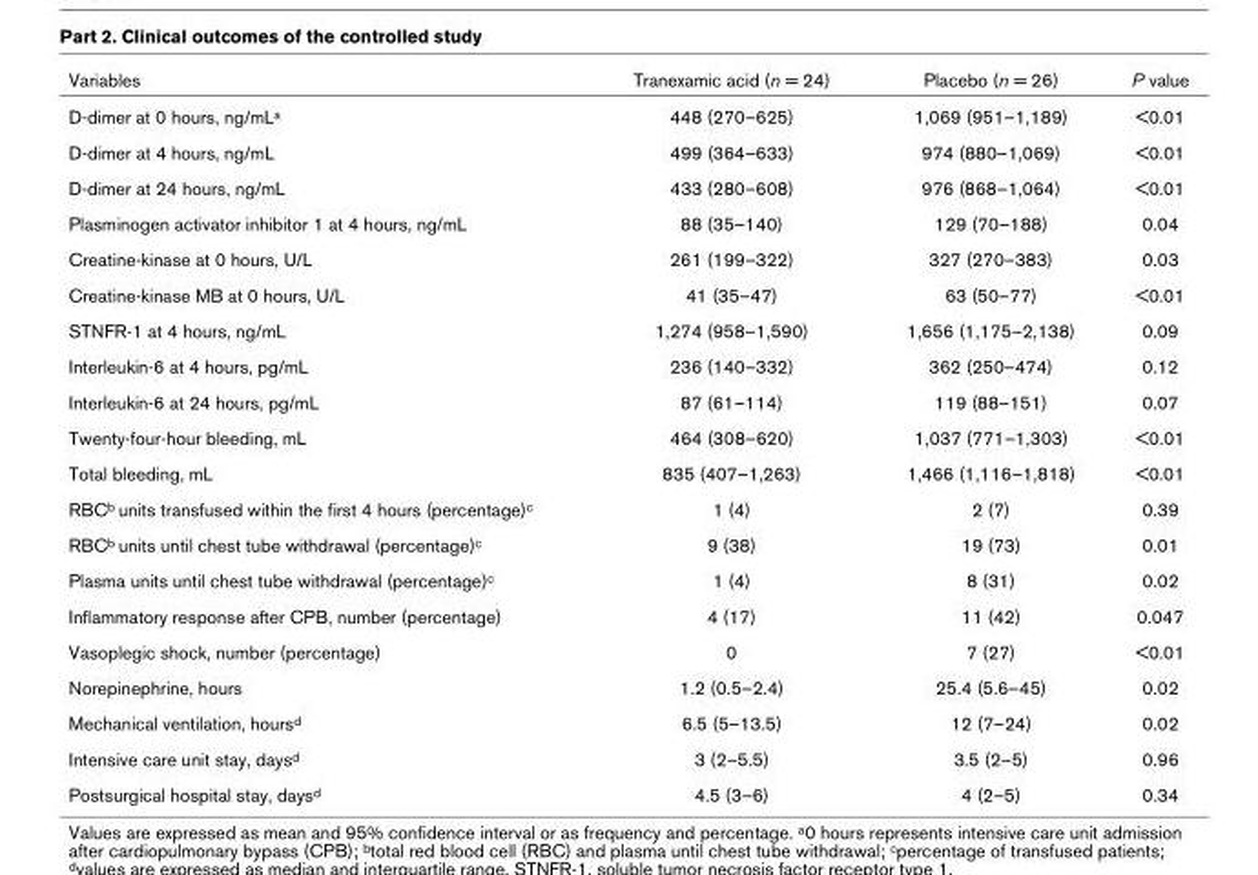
<table><thead><tr><td>Variables</td><td>Tranexamic acid (n = 24)</td><td>Placebo (n = 26)</td><td>P value</td></tr></thead><tbody><tr><td>D-dimer at 0 hours, ng/mL<sup>a</sup></td><td>448 (270–625)</td><td>1,069 (951–1,189)</td><td>&lt;0.01</td></tr><tr><td>D-dimer at 4 hours, ng/mL</td><td>499 (364–633)</td><td>974 (880–1,069)</td><td>&lt;0.01</td></tr><tr><td>D-dimer at 24 hours, ng/mL</td><td>433 (280–608)</td><td>976 (868–1,064)</td><td>&lt;0.01</td></tr><tr><td>Plasminogen activator inhibitor 1 at 4 hours, ng/mL</td><td>88 (35–140)</td><td>129 (70–188)</td><td>0.04</td></tr><tr><td>Creatine-kinase at 0 hours, U/L</td><td>261 (199–322)</td><td>327 (270–383)</td><td>0.03</td></tr><tr><td>Creatine-kinase MB at 0 hours, U/L</td><td>41 (35–47)</td><td>63 (50–77)</td><td>&lt;0.01</td></tr><tr><td>STNFR-1 at 4 hours, ng/mL</td><td>1,274 (958–1,590)</td><td>1,656 (1,175–2,138)</td><td>0.09</td></tr><tr><td>Interleukin-6 at 4 hours, pg/mL</td><td>236 (140–332)</td><td>362 (250–474)</td><td>0.12</td></tr><tr><td>Interleukin-6 at 24 hours, pg/mL</td><td>87 (61–114)</td><td>119 (88–151)</td><td>0.07</td></tr><tr><td>Twenty-four-hour bleeding, mL</td><td>464 (308–620)</td><td>1,037 (771–1,303)</td><td>&lt;0.01</td></tr><tr><td>Total bleeding, mL</td><td>835 (407–1,263)</td><td>1,466 (1,116–1,818)</td><td>&lt;0.01</td></tr><tr><td>RBC<sup>b</sup> units transfused within the first 4 hours (percentage)<sup>c</sup></td><td>1 (4)</td><td>2 (7)</td><td>0.39</td></tr><tr><td>RBC<sup>b</sup> units until chest tube withdrawal (percentage)<sup>c</sup></td><td>9 (38)</td><td>19 (73)</td><td>0.01</td></tr><tr><td>Plasma units until chest tube withdrawal (percentage)<sup>c</sup></td><td>1 (4)</td><td>8 (31)</td><td>0.02</td></tr><tr><td>Inflammatory response after CPB, number (percentage)</td><td>4 (17)</td><td>11 (42)</td><td>0.047</td></tr><tr><td>Vasoplegic shock, number (percentage)</td><td>0</td><td>7 (27)</td><td>&lt;0.01</td></tr><tr><td>Norepinephrine, hours</td><td>1.2 (0.5–2.4)</td><td>25.4 (5.6–45)</td><td>0.02</td></tr><tr><td>Mechanical ventilation, hours<sup>d</sup></td><td>6.5 (5–13.5)</td><td>12 (7–24)</td><td>0.02</td></tr><tr><td>Intensive care unit stay, days<sup>d</sup></td><td>3 (2–5.5)</td><td>3.5 (2–5)</td><td>0.96</td></tr><tr><td>Postsurgical hospital stay, days<sup>d</sup></td><td>4.5 (3–6)</td><td>4 (2–5)</td><td>0.34</td></tr></tbody></table>